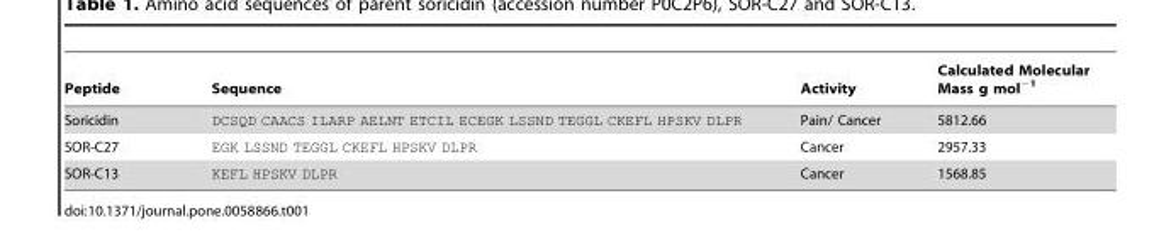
<table><thead><tr><td>Peptide</td><td>Sequence</td><td>Activity</td><td>Calculated Molecular Mass g mol<sup>−1</sup></td></tr></thead><tbody><tr><td>Soricidin</td><td>DCSQD CAACS ILARP AELNT ETCIL ECEGK LSSND TEGGL CKEFL HPSKV DLPR</td><td>Pain/ Cancer</td><td>5812.66</td></tr><tr><td>SOR-C27</td><td>EGK LSSND TEGGL CKEFL HPSKV DLPR</td><td>Cancer</td><td>2957.33</td></tr><tr><td>SOR-C13</td><td>KEFL HPSKV DLPR</td><td>Cancer</td><td>1568.85</td></tr></tbody></table>